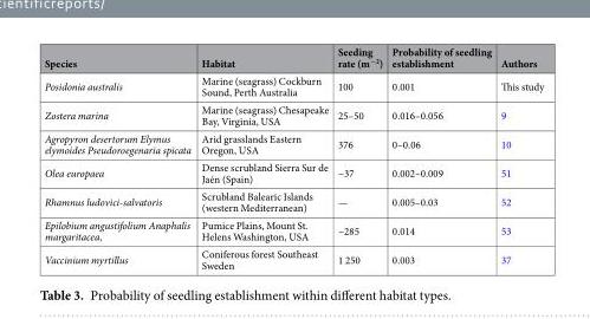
<table><thead><tr><td>Species</td><td>Habitat</td><td>Seeding rate (m<sup>−2</sup>)</td><td>Probability of seedling establishment</td><td>Authors</td></tr></thead><tbody><tr><td>Posidonia australis</td><td>Marine (seagrass) Cockburn Sound, Perth Australia</td><td>100</td><td>0.001</td><td>This study</td></tr><tr><td>Zostera marina</td><td>Marine (seagrass) Chesapeake Bay, Virginia, USA</td><td>25–50</td><td>0.016–0.056</td><td>9</td></tr><tr><td>Agropyron desertorum Elymus elymoides Pseudoroegenaria spicata</td><td>Arid grasslands Eastern Oregon, USA</td><td>376</td><td>0–0.06</td><td>10</td></tr><tr><td>Olea europaea</td><td>Dense scrubland Sierra Sur de Jaén (Spain)</td><td>~37</td><td>0.002–0.009</td><td>51</td></tr><tr><td>Rhamnus ludovici-salvatoris</td><td>Scrubland Balearic Islands (western Mediterranean)</td><td>—</td><td>0.005–0.03</td><td>52</td></tr><tr><td>Epilobium angustifolium Anaphalis margaritacea,</td><td>Pumice Plains, Mount St. Helens Washington, USA</td><td>~285</td><td>0.014</td><td>53</td></tr><tr><td>Vaccinium myrtillus</td><td>Coniferous forest Southeast Sweden</td><td>1 250</td><td>0.003</td><td>37</td></tr></tbody></table>